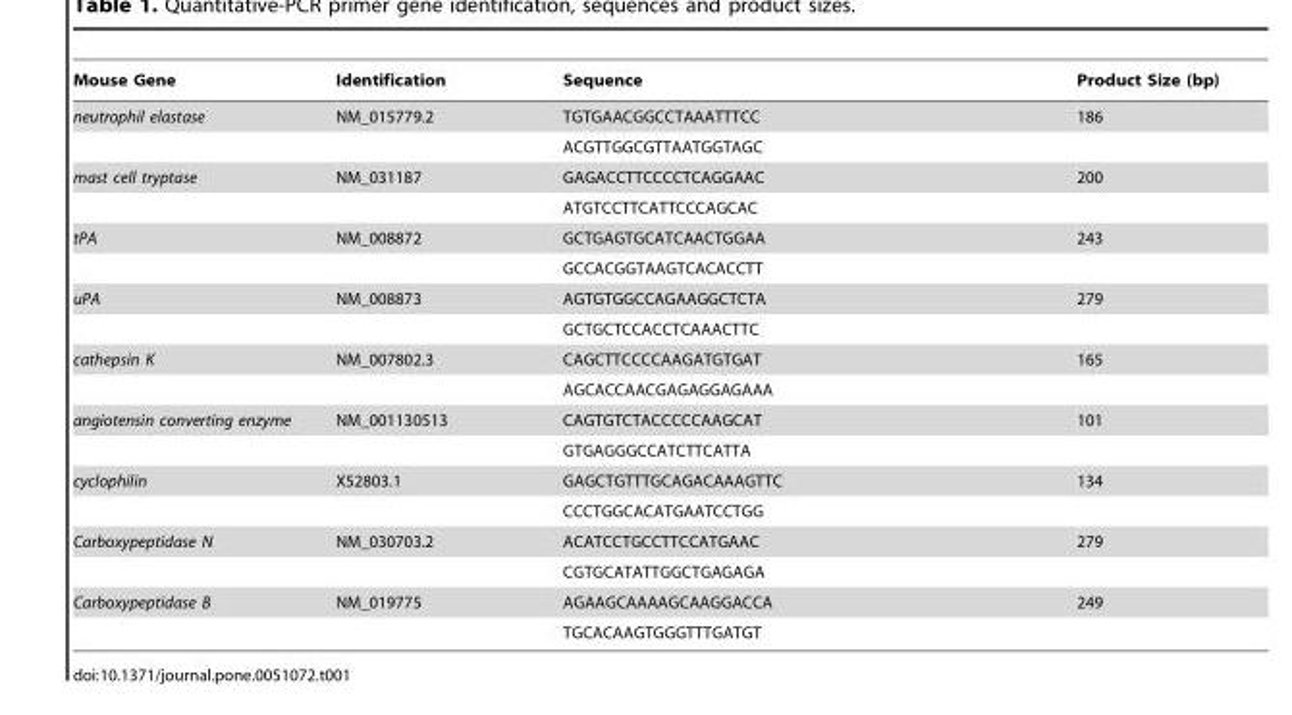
<table><thead><tr><td>Mouse Gene</td><td>Identification</td><td>Sequence</td><td>Product Size (bp)</td></tr></thead><tbody><tr><td rowspan="2">neutrophil elastase</td><td>NM_015779.2</td><td>TGTGAACGGCCTAAATTTCC</td><td>186</td></tr><tr><td></td><td>ACGTTGGCGTTAATGGTAGC</td><td></td></tr><tr><td rowspan="2">mast cell tryptase</td><td>NM_031187</td><td>GAGACCTTCCCCTCAGGAAC</td><td>200</td></tr><tr><td></td><td>ATGTCCTTCATTCCCAGCAC</td><td></td></tr><tr><td rowspan="2">tPA</td><td>NM_008872</td><td>GCTGAGTGCATCAACTGGAA</td><td>243</td></tr><tr><td></td><td>GCCACGGTAAGTCACACCTT</td><td></td></tr><tr><td rowspan="2">uPA</td><td>NM_008873</td><td>AGTGTGGCCAGAAGGCTCTA</td><td>279</td></tr><tr><td></td><td>GCTGCTCCACCTCAAACTTC</td><td></td></tr><tr><td rowspan="2">cathepsin K</td><td>NM_007802.3</td><td>CAGCTTCCCCAAGATGTGAT</td><td>165</td></tr><tr><td></td><td>AGCACCAACGAGAGGAGAAA</td><td></td></tr><tr><td rowspan="2">angiotensin converting enzyme</td><td>NM_001130513</td><td>CAGTGTCTACCCCCAAGCAT</td><td>101</td></tr><tr><td></td><td>GTGAGGGCCATCTTCATTA</td><td></td></tr><tr><td rowspan="2">cyclophilin</td><td>X52803.1</td><td>GAGCTGTTTGCAGACAAAGTTC</td><td>134</td></tr><tr><td></td><td>CCCTGGCACATGAATCCTGG</td><td></td></tr><tr><td rowspan="2">Carboxypeptidase N</td><td>NM_030703.2</td><td>ACATCCTGCCTTCCATGAAC</td><td>279</td></tr><tr><td></td><td>CGTGCATATTGGCTGAGAGA</td><td></td></tr><tr><td rowspan="2">Carboxypeptidase B</td><td>NM_019775</td><td>AGAAGCAAAAGCAAGGACCA</td><td>249</td></tr><tr><td></td><td>TGCACAAGTGGGTTTGATGT</td><td></td></tr></tbody></table>